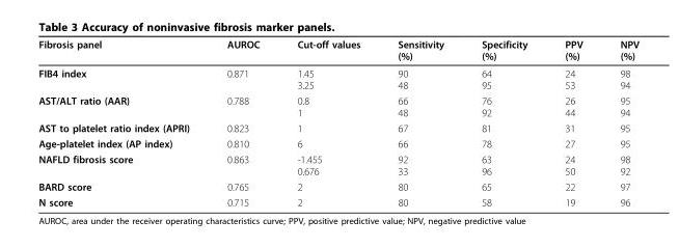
<table><thead><tr><td>Fibrosis panel</td><td>AUROC</td><td>Cut-off values</td><td>Sensitivity (%)</td><td>Specificity (%)</td><td>PPV (%)</td><td>NPV (%)</td></tr></thead><tbody><tr><td>FIB4 index</td><td>0.871</td><td>1.45 3.25</td><td>90 48</td><td>64 95</td><td>24 53</td><td>98 94</td></tr><tr><td>AST/ALT ratio (AAR)</td><td>0.788</td><td>0.8 1</td><td>66 48</td><td>76 92</td><td>26 44</td><td>95 94</td></tr><tr><td>AST to platelet ratio index (APRI)</td><td>0.823</td><td>1</td><td>67</td><td>81</td><td>31</td><td>95</td></tr><tr><td>Age-platelet index (AP index)</td><td>0.810</td><td>6</td><td>66</td><td>78</td><td>27</td><td>95</td></tr><tr><td>NAFLD fibrosis score</td><td>0.863</td><td>-1.455 0.676</td><td>92 33</td><td>63 96</td><td>24 50</td><td>98 92</td></tr><tr><td>BARD score</td><td>0.765</td><td>2</td><td>80</td><td>65</td><td>22</td><td>97</td></tr><tr><td>N score</td><td>0.715</td><td>2</td><td>80</td><td>58</td><td>19</td><td>96</td></tr></tbody></table>